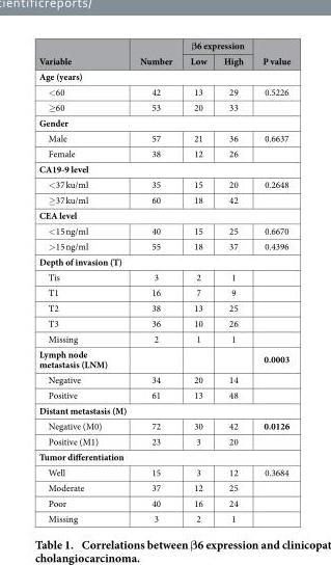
<table><thead><tr><td rowspan="2">Variable</td><td rowspan="2">Number</td><td colspan="2">β6 expression</td><td rowspan="2">P value</td></tr><tr><td>Low</td><td>High</td></tr></thead><tbody><tr><td colspan="5">Age (years)</td></tr><tr><td>&lt; 60</td><td>42</td><td>13</td><td>29</td><td>0.5226</td></tr><tr><td>≥ 60</td><td>53</td><td>20</td><td>33</td><td></td></tr><tr><td colspan="5">Gender</td></tr><tr><td>Male</td><td>57</td><td>21</td><td>36</td><td>0.6637</td></tr><tr><td>Female</td><td>38</td><td>12</td><td>26</td><td></td></tr><tr><td colspan="5">CA19-9 level</td></tr><tr><td>&lt; 37 ku/ml</td><td>35</td><td>15</td><td>20</td><td>0.2648</td></tr><tr><td>≥ 37 ku/ml</td><td>60</td><td>18</td><td>42</td><td></td></tr><tr><td colspan="5">CEA level</td></tr><tr><td>&lt; 15 ng/ml</td><td>40</td><td>15</td><td>25</td><td>0.6670</td></tr><tr><td>&gt; 15 ng/ml</td><td>55</td><td>18</td><td>37</td><td>0.4396</td></tr><tr><td colspan="5">Depth of invasion (T)</td></tr><tr><td>Tis</td><td>3</td><td>2</td><td>1</td><td></td></tr><tr><td>T1</td><td>16</td><td>7</td><td>9</td><td></td></tr><tr><td>T2</td><td>38</td><td>13</td><td>25</td><td></td></tr><tr><td>T3</td><td>36</td><td>10</td><td>26</td><td></td></tr><tr><td>Missing</td><td>2</td><td>1</td><td>1</td><td></td></tr><tr><td>Lymph node metastasis (LNM)</td><td></td><td></td><td></td><td>0.0003</td></tr><tr><td>Negative</td><td>34</td><td>20</td><td>14</td><td></td></tr><tr><td>Positive</td><td>61</td><td>13</td><td>48</td><td></td></tr><tr><td colspan="5">Distant metastasis (M)</td></tr><tr><td>Negative (M0)</td><td>72</td><td>30</td><td>42</td><td>0.0126</td></tr><tr><td>Positive (M1)</td><td>23</td><td>3</td><td>20</td><td></td></tr><tr><td colspan="5">Tumor differentiation</td></tr><tr><td>Well</td><td>15</td><td>3</td><td>12</td><td>0.3684</td></tr><tr><td>Moderate</td><td>37</td><td>12</td><td>25</td><td></td></tr><tr><td>Poor</td><td>40</td><td>16</td><td>24</td><td></td></tr><tr><td>Missing</td><td>3</td><td>2</td><td>1</td><td></td></tr></tbody></table>